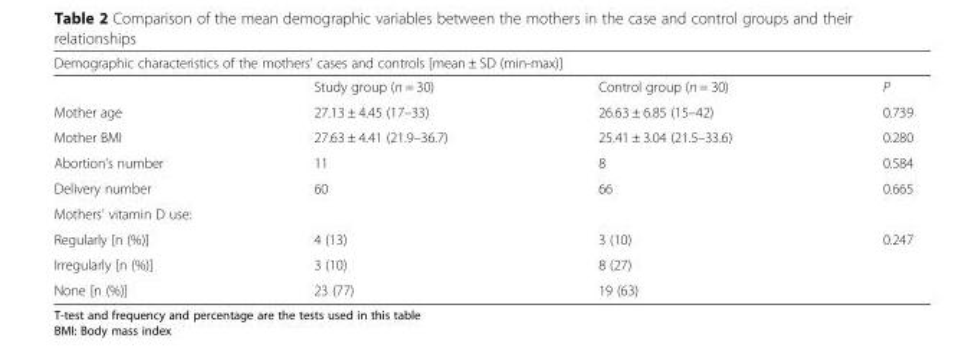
<table><thead><tr><td colspan="4">Demographic characteristics of the mothers’ cases and controls [mean ± SD (min-max)]</td></tr><tr><td></td><td>Study group (n = 30)</td><td>Control group (n = 30)</td><td>P</td></tr></thead><tbody><tr><td>Mother age</td><td>27.13 ± 4.45 (17–33)</td><td>26.63 ± 6.85 (15–42)</td><td>0.739</td></tr><tr><td>Mother BMI</td><td>27.63 ± 4.41 (21.9–36.7)</td><td>25.41 ± 3.04 (21.5–33.6)</td><td>0.280</td></tr><tr><td>Abortion’s number</td><td>11</td><td>8</td><td>0.584</td></tr><tr><td>Delivery number</td><td>60</td><td>66</td><td>0.665</td></tr><tr><td colspan="4">Mothers’ vitamin D use:</td></tr><tr><td>Regularly [n (%)]</td><td>4 (13)</td><td>3 (10)</td><td rowspan="3">0.247</td></tr><tr><td>Irregularly [n (%)]</td><td>3 (10)</td><td>8 (27)</td></tr><tr><td>None [n (%)]</td><td>23 (77)</td><td>19 (63)</td></tr></tbody></table>